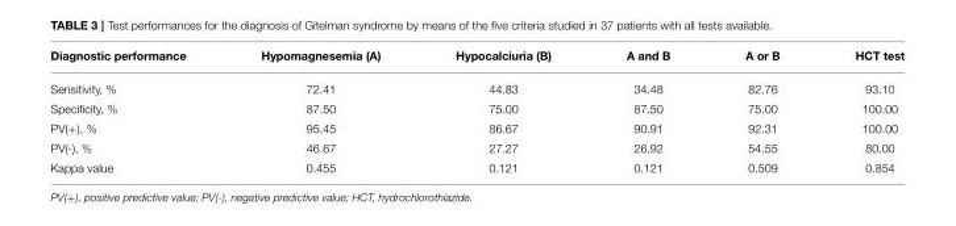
<table><thead><tr><td>Diagnostic performance</td><td>Hypomagnesemia (A)</td><td>Hypocalciuria (B)</td><td>A and B</td><td>A or B</td><td>HCT test</td></tr></thead><tbody><tr><td>Sensitivity, %</td><td>72.41</td><td>44.83</td><td>34.48</td><td>82.76</td><td>93.10</td></tr><tr><td>Specificity, %</td><td>87.50</td><td>75.00</td><td>87.50</td><td>75.00</td><td>100.00</td></tr><tr><td>PV(+), %</td><td>95.45</td><td>86.67</td><td>90.91</td><td>92.31</td><td>100.00</td></tr><tr><td>PV(-), %</td><td>46.67</td><td>27.27</td><td>26.92</td><td>54.55</td><td>80.00</td></tr><tr><td>Kappa value</td><td>0.455</td><td>0.121</td><td>0.121</td><td>0.509</td><td>0.854</td></tr></tbody></table>